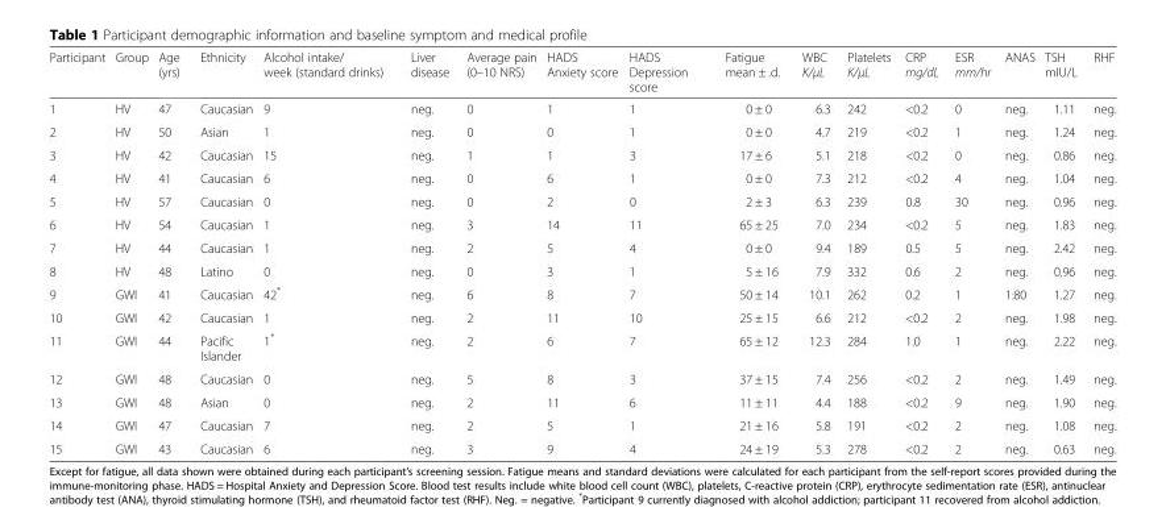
<table><thead><tr><td>Participant</td><td>Group</td><td>Age (yrs)</td><td>Ethnicity</td><td>Alcohol intake/ week (standard drinks)</td><td>Liver disease</td><td>Average pain (0–10 NRS)</td><td>HADS Anxiety score</td><td>HADS Depression score</td><td>Fatigue mean ± .d.</td><td>WBC K/μL</td><td>Platelets K/μL</td><td>CRP mg/dL</td><td>ESR mm/hr</td><td>ANAS</td><td>TSH mIU/L</td><td>RHF</td></tr></thead><tbody><tr><td>1</td><td>HV</td><td>47</td><td>Caucasian</td><td>9</td><td>neg.</td><td>0</td><td>1</td><td>1</td><td>0 ± 0</td><td>6.3</td><td>242</td><td>&lt;0.2</td><td>0</td><td>neg.</td><td>1.11</td><td>neg.</td></tr><tr><td>2</td><td>HV</td><td>50</td><td>Asian</td><td>1</td><td>neg.</td><td>0</td><td>0</td><td>1</td><td>0 ± 0</td><td>4.7</td><td>219</td><td>&lt;0.2</td><td>1</td><td>neg.</td><td>1.24</td><td>neg.</td></tr><tr><td>3</td><td>HV</td><td>42</td><td>Caucasian</td><td>15</td><td>neg.</td><td>1</td><td>1</td><td>3</td><td>17 ± 6</td><td>5.1</td><td>218</td><td>&lt;0.2</td><td>0</td><td>neg.</td><td>0.86</td><td>neg.</td></tr><tr><td>4</td><td>HV</td><td>41</td><td>Caucasian</td><td>6</td><td>neg.</td><td>0</td><td>6</td><td>1</td><td>0 ± 0</td><td>7.3</td><td>212</td><td>&lt;0.2</td><td>4</td><td>neg.</td><td>1.04</td><td>neg.</td></tr><tr><td>5</td><td>HV</td><td>57</td><td>Caucasian</td><td>0</td><td>neg.</td><td>0</td><td>2</td><td>0</td><td>2 ± 3</td><td>6.3</td><td>239</td><td>0.8</td><td>30</td><td>neg.</td><td>0.96</td><td>neg.</td></tr><tr><td>6</td><td>HV</td><td>54</td><td>Caucasian</td><td>1</td><td>neg.</td><td>3</td><td>14</td><td>11</td><td>65 ± 25</td><td>7.0</td><td>234</td><td>&lt;0.2</td><td>5</td><td>neg.</td><td>1.83</td><td>neg.</td></tr><tr><td>7</td><td>HV</td><td>44</td><td>Caucasian</td><td>1</td><td>neg.</td><td>2</td><td>5</td><td>4</td><td>0 ± 0</td><td>9.4</td><td>189</td><td>0.5</td><td>5</td><td>neg.</td><td>2.42</td><td>neg.</td></tr><tr><td>8</td><td>HV</td><td>48</td><td>Latino</td><td>0</td><td>neg.</td><td>0</td><td>3</td><td>1</td><td>5 ± 16</td><td>7.9</td><td>332</td><td>0.6</td><td>2</td><td>neg.</td><td>0.96</td><td>neg.</td></tr><tr><td>9</td><td>GWI</td><td>41</td><td>Caucasian</td><td>42*</td><td>neg.</td><td>6</td><td>8</td><td>7</td><td>50 ± 14</td><td>10.1</td><td>262</td><td>0.2</td><td>1</td><td>1:80</td><td>1.27</td><td>neg.</td></tr><tr><td>10</td><td>GWI</td><td>42</td><td>Caucasian</td><td>1</td><td>neg.</td><td>2</td><td>11</td><td>10</td><td>25 ± 15</td><td>6.6</td><td>212</td><td>&lt;0.2</td><td>2</td><td>neg.</td><td>1.98</td><td>neg.</td></tr><tr><td>11</td><td>GWI</td><td>44</td><td>Pacific Islander</td><td>1*</td><td>neg.</td><td>2</td><td>6</td><td>7</td><td>65 ± 12</td><td>12.3</td><td>284</td><td>1.0</td><td>1</td><td>neg.</td><td>2.22</td><td>neg.</td></tr><tr><td>12</td><td>GWI</td><td>48</td><td>Caucasian</td><td>0</td><td>neg.</td><td>5</td><td>8</td><td>3</td><td>37 ± 15</td><td>7.4</td><td>256</td><td>&lt;0.2</td><td>2</td><td>neg.</td><td>1.49</td><td>neg.</td></tr><tr><td>13</td><td>GWI</td><td>48</td><td>Asian</td><td>0</td><td>neg.</td><td>2</td><td>11</td><td>6</td><td>11 ± 11</td><td>4.4</td><td>188</td><td>&lt;0.2</td><td>9</td><td>neg.</td><td>1.90</td><td>neg.</td></tr><tr><td>14</td><td>GWI</td><td>47</td><td>Caucasian</td><td>7</td><td>neg.</td><td>2</td><td>5</td><td>1</td><td>21 ± 16</td><td>5.8</td><td>191</td><td>&lt;0.2</td><td>2</td><td>neg.</td><td>1.08</td><td>neg.</td></tr><tr><td>15</td><td>GWI</td><td>43</td><td>Caucasian</td><td>6</td><td>neg.</td><td>3</td><td>9</td><td>4</td><td>24 ± 19</td><td>5.3</td><td>278</td><td>&lt;0.2</td><td>2</td><td>neg.</td><td>0.63</td><td>neg.</td></tr></tbody></table>